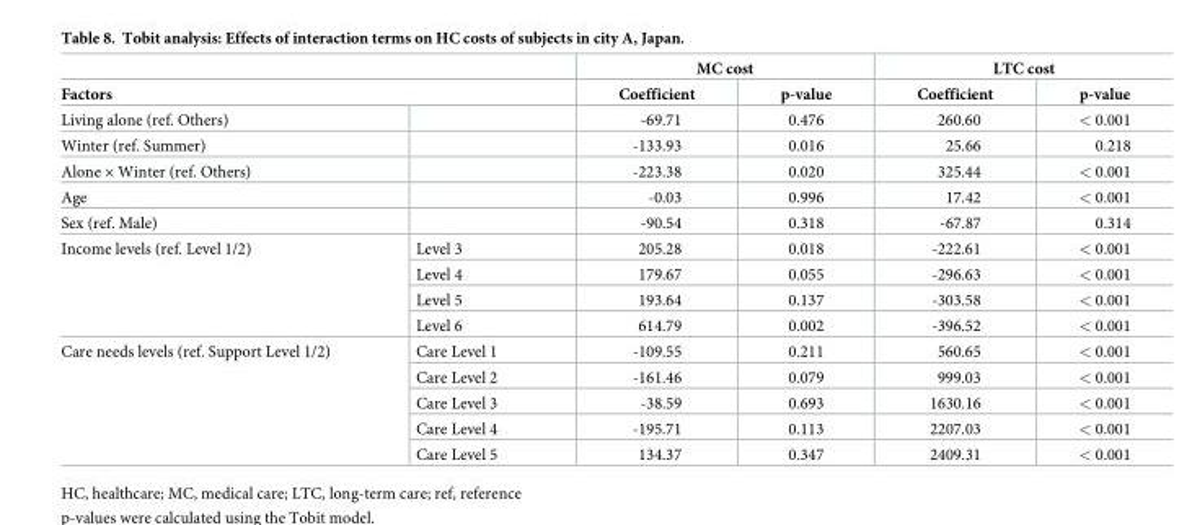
<table><thead><tr><td></td><td></td><td colspan="2">MC cost</td><td colspan="2">LTC cost</td></tr><tr><td colspan="2">Factors</td><td>Coefficient</td><td>p-value</td><td>Coefficient</td><td>p-value</td></tr></thead><tbody><tr><td>Living alone (ref. Others)</td><td></td><td>-69.71</td><td>0.476</td><td>260.60</td><td>&lt; 0.001</td></tr><tr><td>Winter (ref. Summer)</td><td></td><td>-133.93</td><td>0.016</td><td>25.66</td><td>0.218</td></tr><tr><td>Alone × Winter (ref. Others)</td><td></td><td>-223.38</td><td>0.020</td><td>325.44</td><td>&lt; 0.001</td></tr><tr><td>Age</td><td></td><td>-0.03</td><td>0.996</td><td>17.42</td><td>&lt; 0.001</td></tr><tr><td>Sex (ref. Male)</td><td></td><td>-90.54</td><td>0.318</td><td>-67.87</td><td>0.314</td></tr><tr><td rowspan="4">Income levels (ref. Level 1/2)</td><td>Level 3</td><td>205.28</td><td>0.018</td><td>-222.61</td><td>&lt; 0.001</td></tr><tr><td>Level 4</td><td>179.67</td><td>0.055</td><td>-296.63</td><td>&lt; 0.001</td></tr><tr><td>Level 5</td><td>193.64</td><td>0.137</td><td>-303.58</td><td>&lt; 0.001</td></tr><tr><td>Level 6</td><td>614.79</td><td>0.002</td><td>-396.52</td><td>&lt; 0.001</td></tr><tr><td rowspan="5">Care needs levels (ref. Support Level 1/2)</td><td>Care Level 1</td><td>-109.55</td><td>0.211</td><td>560.65</td><td>&lt; 0.001</td></tr><tr><td>Care Level 2</td><td>-161.46</td><td>0.079</td><td>999.03</td><td>&lt; 0.001</td></tr><tr><td>Care Level 3</td><td>-38.59</td><td>0.693</td><td>1630.16</td><td>&lt; 0.001</td></tr><tr><td>Care Level 4</td><td>-195.71</td><td>0.113</td><td>2207.03</td><td>&lt; 0.001</td></tr><tr><td>Care Level 5</td><td>134.37</td><td>0.347</td><td>2409.31</td><td>&lt; 0.001</td></tr></tbody></table>